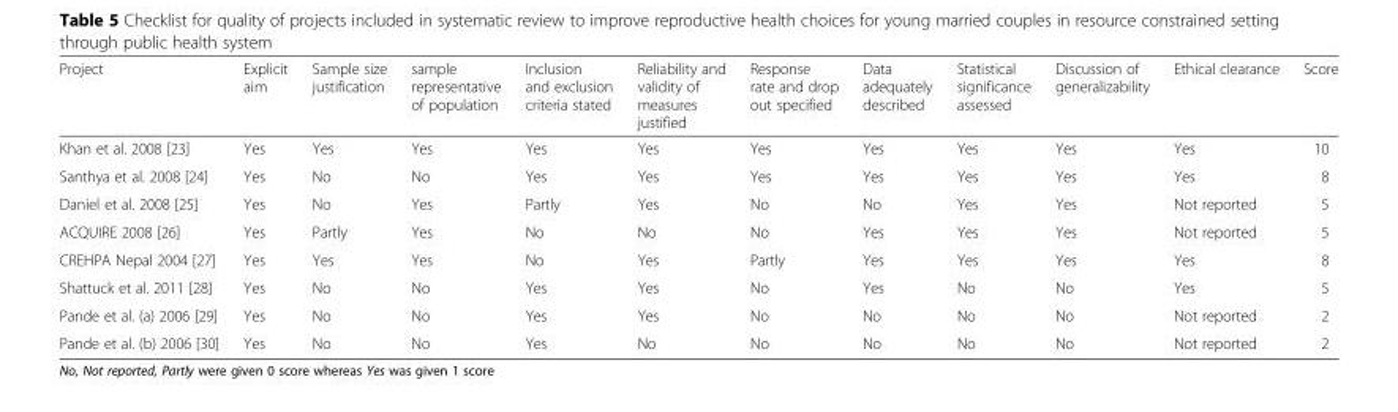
<table><thead><tr><td>Project</td><td>Explicit aim</td><td>Sample size justification</td><td>sample representative of population</td><td>Inclusion and exclusion criteria stated</td><td>Reliability and validity of measures justified</td><td>Response rate and drop out specified</td><td>Data adequately described</td><td>Statistical significance assessed</td><td>Discussion of generalizability</td><td>Ethical clearance</td><td>Score</td></tr></thead><tbody><tr><td>Khan et al. 2008 [23]</td><td>Yes</td><td>Yes</td><td>Yes</td><td>Yes</td><td>Yes</td><td>Yes</td><td>Yes</td><td>Yes</td><td>Yes</td><td>Yes</td><td>10</td></tr><tr><td>Santhya et al. 2008 [24]</td><td>Yes</td><td>No</td><td>No</td><td>Yes</td><td>Yes</td><td>Yes</td><td>Yes</td><td>Yes</td><td>Yes</td><td>Yes</td><td>8</td></tr><tr><td>Daniel et al. 2008 [25]</td><td>Yes</td><td>No</td><td>Yes</td><td>Partly</td><td>Yes</td><td>No</td><td>No</td><td>Yes</td><td>Yes</td><td>Not reported</td><td>5</td></tr><tr><td>ACQUIRE 2008 [26]</td><td>Yes</td><td>Partly</td><td>Yes</td><td>No</td><td>No</td><td>No</td><td>Yes</td><td>Yes</td><td>Yes</td><td>Not reported</td><td>5</td></tr><tr><td>CREHPA Nepal 2004 [27]</td><td>Yes</td><td>Yes</td><td>Yes</td><td>No</td><td>Yes</td><td>Partly</td><td>Yes</td><td>Yes</td><td>Yes</td><td>Yes</td><td>8</td></tr><tr><td>Shattuck et al. 2011 [28]</td><td>Yes</td><td>No</td><td>No</td><td>Yes</td><td>Yes</td><td>No</td><td>Yes</td><td>No</td><td>No</td><td>Yes</td><td>5</td></tr><tr><td>Pande et al. (a) 2006 [29]</td><td>Yes</td><td>No</td><td>No</td><td>Yes</td><td>Yes</td><td>No</td><td>No</td><td>No</td><td>No</td><td>Not reported</td><td>2</td></tr><tr><td>Pande et al. (b) 2006 [30]</td><td>Yes</td><td>No</td><td>No</td><td>Yes</td><td>No</td><td>No</td><td>No</td><td>No</td><td>No</td><td>Not reported</td><td>2</td></tr></tbody></table>